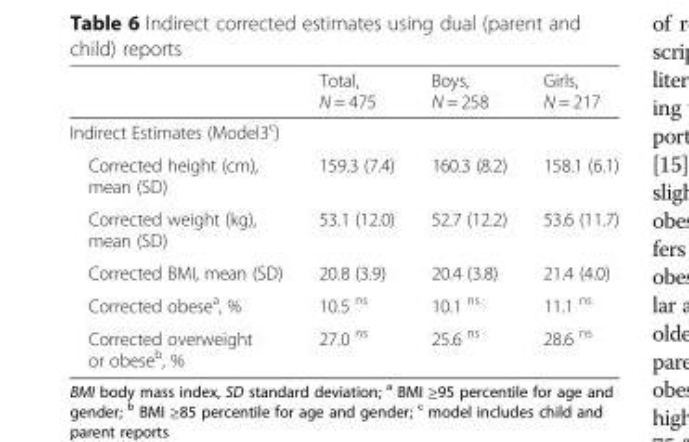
<table><thead><tr><td></td><td>Total, N = 475</td><td>Boys, N = 258</td><td>Girls, N = 217</td></tr></thead><tbody><tr><td colspan="4">Indirect Estimates (Model3<sup>c</sup>)</td></tr><tr><td>Corrected height (cm), mean (SD)</td><td>159.3 (7.4)</td><td>160.3 (8.2)</td><td>158.1 (6.1)</td></tr><tr><td>Corrected weight (kg), mean (SD)</td><td>53.1 (12.0)</td><td>52.7 (12.2)</td><td>53.6 (11.7)</td></tr><tr><td>Corrected BMI, mean (SD)</td><td>20.8 (3.9)</td><td>20.4 (3.8)</td><td>21.4 (4.0)</td></tr><tr><td>Corrected obese<sup>a</sup>, %</td><td>10.5 <sup>ns</sup></td><td>10.1 <sup>ns</sup></td><td>11.1 <sup>ns</sup></td></tr><tr><td>Corrected overweight or obese<sup>b</sup>, %</td><td>27.0 <sup>ns</sup></td><td>25.6 <sup>ns</sup></td><td>28.6 <sup>ns</sup></td></tr></tbody></table>